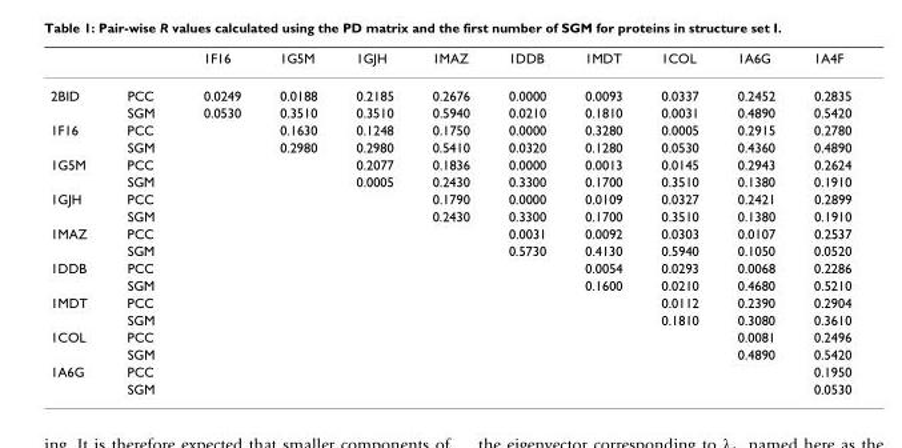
<table><thead><tr><td></td><td></td><td>1F16</td><td>1G5M</td><td>1GJH</td><td>1MAZ</td><td>1DDB</td><td>1MDT</td><td>1COL</td><td>1A6G</td><td>1A4F</td></tr></thead><tbody><tr><td rowspan="2">2BID</td><td>PCC</td><td>0.0249</td><td>0.0188</td><td>0.2185</td><td>0.2676</td><td>0.0000</td><td>0.0093</td><td>0.0337</td><td>0.2452</td><td>0.2835</td></tr><tr><td>SGM</td><td>0.0530</td><td>0.3510</td><td>0.3510</td><td>0.5940</td><td>0.0210</td><td>0.1810</td><td>0.0031</td><td>0.4890</td><td>0.5420</td></tr><tr><td rowspan="2">1F16</td><td>PCC</td><td></td><td>0.1630</td><td>0.1248</td><td>0.1750</td><td>0.0000</td><td>0.3280</td><td>0.0005</td><td>0.2915</td><td>0.2780</td></tr><tr><td>SGM</td><td></td><td>0.2980</td><td>0.2980</td><td>0.5410</td><td>0.0320</td><td>0.1280</td><td>0.0530</td><td>0.4360</td><td>0.4890</td></tr><tr><td rowspan="2">1G5M</td><td>PCC</td><td></td><td></td><td>0.2077</td><td>0.1836</td><td>0.0000</td><td>0.0013</td><td>0.0145</td><td>0.2943</td><td>0.2624</td></tr><tr><td>SGM</td><td></td><td></td><td>0.0005</td><td>0.2430</td><td>0.3300</td><td>0.1700</td><td>0.3510</td><td>0.1380</td><td>0.1910</td></tr><tr><td rowspan="2">1GJH</td><td>PCC</td><td></td><td></td><td></td><td>0.1790</td><td>0.0000</td><td>0.0109</td><td>0.0327</td><td>0.2421</td><td>0.2899</td></tr><tr><td>SGM</td><td></td><td></td><td></td><td>0.2430</td><td>0.3300</td><td>0.1700</td><td>0.3510</td><td>0.1380</td><td>0.1910</td></tr><tr><td rowspan="2">1MAZ</td><td>PCC</td><td></td><td></td><td></td><td></td><td>0.0031</td><td>0.0092</td><td>0.0303</td><td>0.0107</td><td>0.2537</td></tr><tr><td>SGM</td><td></td><td></td><td></td><td></td><td>0.5730</td><td>0.4130</td><td>0.5940</td><td>0.1050</td><td>0.0520</td></tr><tr><td rowspan="2">1DDB</td><td>PCC</td><td></td><td></td><td></td><td></td><td></td><td>0.0054</td><td>0.0293</td><td>0.0068</td><td>0.2286</td></tr><tr><td>SGM</td><td></td><td></td><td></td><td></td><td></td><td>0.1600</td><td>0.0210</td><td>0.4680</td><td>0.5210</td></tr><tr><td rowspan="2">1MDT</td><td>PCC</td><td></td><td></td><td></td><td></td><td></td><td></td><td>0.0112</td><td>0.2390</td><td>0.2904</td></tr><tr><td>SGM</td><td></td><td></td><td></td><td></td><td></td><td></td><td>0.1810</td><td>0.3080</td><td>0.3610</td></tr><tr><td rowspan="2">1COL</td><td>PCC</td><td></td><td></td><td></td><td></td><td></td><td></td><td></td><td>0.0081</td><td>0.2496</td></tr><tr><td>SGM</td><td></td><td></td><td></td><td></td><td></td><td></td><td></td><td>0.4890</td><td>0.5420</td></tr><tr><td rowspan="2">1A6G</td><td>PCC</td><td></td><td></td><td></td><td></td><td></td><td></td><td></td><td></td><td>0.1950</td></tr><tr><td>SGM</td><td></td><td></td><td></td><td></td><td></td><td></td><td></td><td></td><td>0.0530</td></tr></tbody></table>